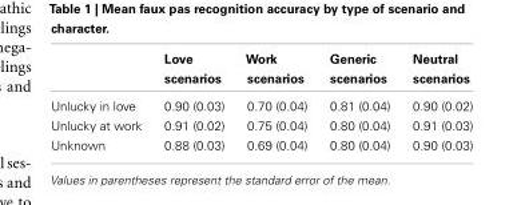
<table><thead><tr><td></td><td>Love scenarios</td><td>Work scenarios</td><td>Generic scenarios</td><td>Neutral scenarios</td></tr></thead><tbody><tr><td>Unlucky in love</td><td>0.90 (0.03)</td><td>0.70 (0.04)</td><td>0.81 (0.04)</td><td>0.90 (0.02)</td></tr><tr><td>Unlucky at work</td><td>0.91 (0.02)</td><td>0.75 (0.04)</td><td>0.80 (0.04)</td><td>0.91 (0.03)</td></tr><tr><td>Unknown</td><td>0.88 (0.03)</td><td>0.69 (0.04)</td><td>0.80 (0.04)</td><td>0.90 (0.03)</td></tr></tbody></table>